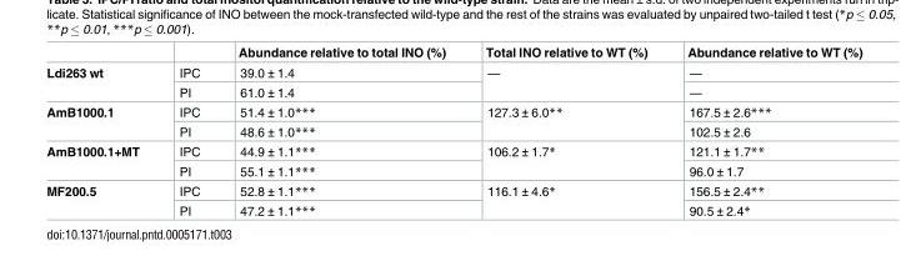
<table><thead><tr><td></td><td></td><td>Abundance relative to total INO (%)</td><td>Total INO relative to WT (%)</td><td>Abundance relative to WT (%)</td></tr></thead><tbody><tr><td rowspan="2">Ldi263 wt</td><td>IPC</td><td>39.0 ± 1.4</td><td rowspan="2">—</td><td>—</td></tr><tr><td>PI</td><td>61.0 ± 1.4</td><td>—</td></tr><tr><td rowspan="2">AmB1000.1</td><td>IPC</td><td>51.4 ± 1.0***</td><td rowspan="2">127.3 ± 6.0**</td><td>167.5 ± 2.6***</td></tr><tr><td>PI</td><td>48.6 ± 1.0***</td><td>102.5 ± 2.6</td></tr><tr><td rowspan="2">AmB1000.1+MT</td><td>IPC</td><td>44.9 ± 1.1***</td><td rowspan="2">106.2 ± 1.7*</td><td>121.1 ± 1.7**</td></tr><tr><td>PI</td><td>55.1 ± 1.1***</td><td>96.0 ± 1.7</td></tr><tr><td rowspan="2">MF200.5</td><td>IPC</td><td>52.8 ± 1.1***</td><td rowspan="2">116.1 ± 4.6*</td><td>156.5 ± 2.4**</td></tr><tr><td>PI</td><td>47.2 ± 1.1***</td><td>90.5 ± 2.4*</td></tr></tbody></table>